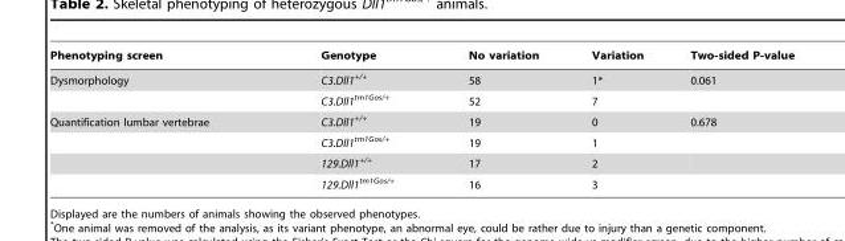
<table><thead><tr><td>Phenotyping screen</td><td>Genotype</td><td>No variation</td><td>Variation</td><td>Two-sided P-value</td></tr></thead><tbody><tr><td rowspan="2">Dysmorphology</td><td>C3.Dll1<sup>+/+</sup></td><td>58</td><td>1*</td><td>0.061</td></tr><tr><td>C3.Dll1<sup>tm1Gos/+</sup></td><td>52</td><td>7</td><td></td></tr><tr><td rowspan="4">Quantification lumbar vertebrae</td><td>C3.Dll1<sup>+/+</sup></td><td>19</td><td>0</td><td>0.678</td></tr><tr><td>C3.Dll1<sup>tm1Gos/+</sup></td><td>19</td><td>1</td><td></td></tr><tr><td>129.Dll1<sup>+/+</sup></td><td>17</td><td>2</td><td></td></tr><tr><td>129.Dll1<sup>tm1Gos/+</sup></td><td>16</td><td>3</td><td></td></tr></tbody></table>